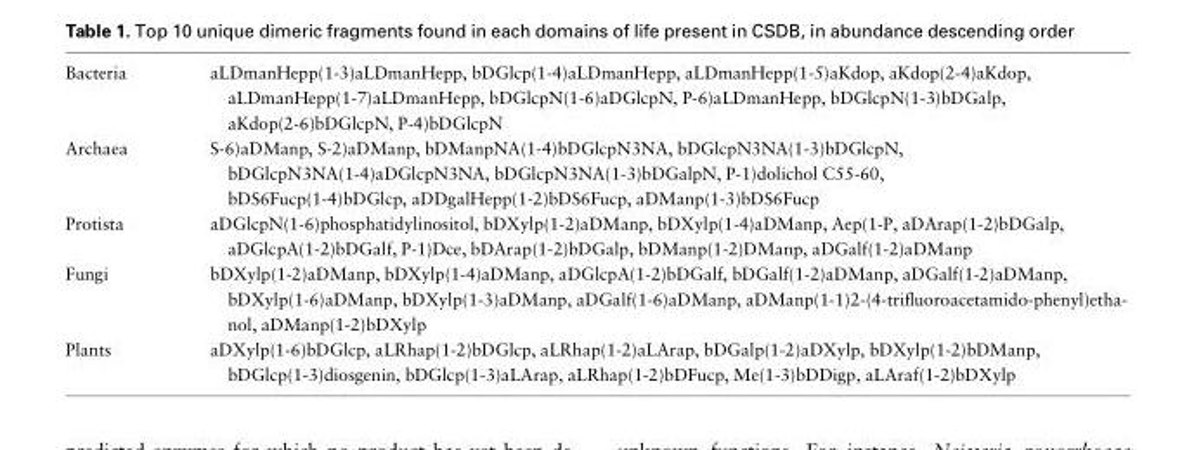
<table><tbody><tr><td>Bacteria</td><td>aLDmanHepp(1-3)aLDmanHepp, bDGlcp(1-4)aLDmanHepp, aLDmanHepp(1-5)aKdop, aKdop(2-4)aKdop, aLDmanHepp(1-7)aLDmanHepp, bDGlcpN(1-6)aDGlcpN, P-6)aLDmanHepp, bDGlcpN(1-3)bDGalp, aKdop(2-6)bDGlcpN, P-4)bDGlcpN</td></tr><tr><td>Archaea</td><td>S-6)aDManp, S-2)aDManp, bDManpNA(1-4)bDGlcpN3NA, bDGlcpN3NA(1-3)bDGlcpN, bDGlcpN3NA(1-4)aDGlcpN3NA, bDGlcpN3NA(1-3)bDGalpN, P-1)dolichol C55-60, bDS6Fucp(1-4)bDGlcp, aDDgalHepp(1-2)bDS6Fucp, aDManp(1-3)bDS6Fucp</td></tr><tr><td>Protista</td><td>aDGlcpN(1-6)phosphatidylinositol, bDXylp(1-2)aDManp, bDXylp(1-4)aDManp, Aep(1-P, aDArap(1-2)bDGalp, aDGlcpA(1-2)bDGalf, P-1)Dce, bDArap(1-2)bDGalp, bDManp(1-2)DManp, aDGalf(1-2)aDManp</td></tr><tr><td>Fungi</td><td>bDXylp(1-2)aDManp, bDXylp(1-4)aDManp, aDGlcpA(1-2)bDGalf, bDGalf(1-2)aDManp, aDGalf(1-2)aDManp, bDXylp(1-6)aDManp, bDXylp(1-3)aDManp, aDGalf(1-6)aDManp, aDManp(1-1)2-(4-trifluoroacetamido-phenyl)etha- nol, aDManp(1-2)bDXylp</td></tr><tr><td>Plants</td><td>aDXylp(1-6)bDGlcp, aLRhap(1-2)bDGlcp, aLRhap(1-2)aLArap, bDGalp(1-2)aDXylp, bDXylp(1-2)bDManp, bDGlcp(1-3)diosgenin, bDGlcp(1-3)aLArap, aLRhap(1-2)bDFucp, Me(1-3)bDDigp, aLAraf(1-2)bDXylp</td></tr></tbody></table>